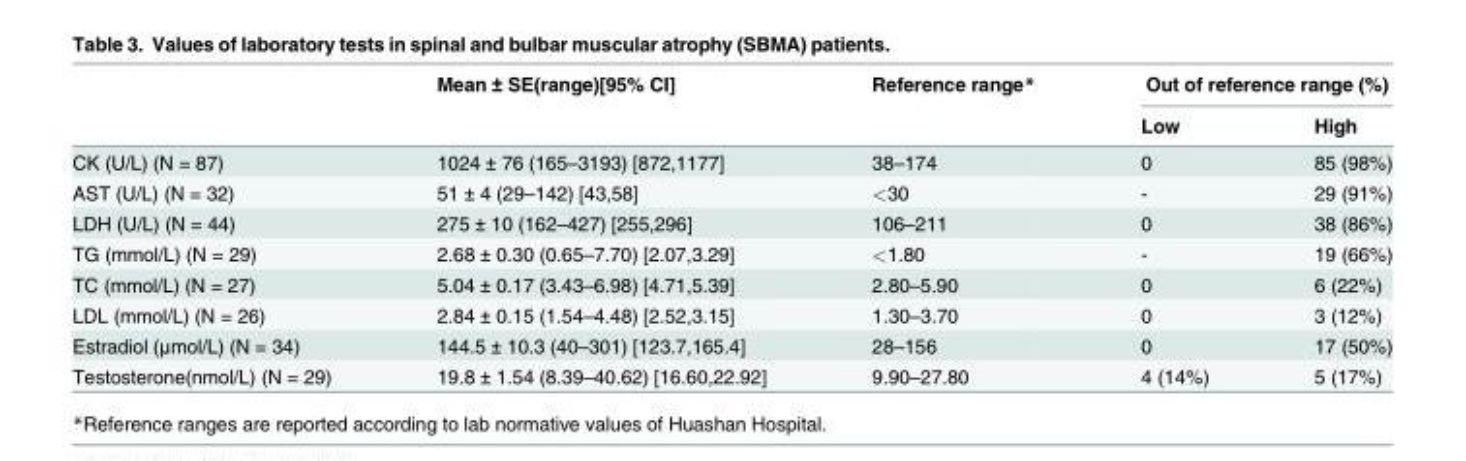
<table><thead><tr><td rowspan="2"></td><td rowspan="2">Mean ± SE(range)[95% CI]</td><td rowspan="2">Reference range*</td><td colspan="2">Out of reference range (%)</td></tr><tr><td>Low</td><td>High</td></tr></thead><tbody><tr><td>CK (U/L) (N = 87)</td><td>1024 ± 76 (165–3193) [872,1177]</td><td>38–174</td><td>0</td><td>85 (98%)</td></tr><tr><td>AST (U/L) (N = 32)</td><td>51 ± 4 (29–142) [43,58]</td><td>&lt;30</td><td>-</td><td>29 (91%)</td></tr><tr><td>LDH (U/L) (N = 44)</td><td>275 ± 10 (162–427) [255,296]</td><td>106–211</td><td>0</td><td>38 (86%)</td></tr><tr><td>TG (mmol/L) (N = 29)</td><td>2.68 ± 0.30 (0.65–7.70) [2.07,3.29]</td><td>&lt;1.80</td><td>-</td><td>19 (66%)</td></tr><tr><td>TC (mmol/L) (N = 27)</td><td>5.04 ± 0.17 (3.43–6.98) [4.71,5.39]</td><td>2.80–5.90</td><td>0</td><td>6 (22%)</td></tr><tr><td>LDL (mmol/L) (N = 26)</td><td>2.84 ± 0.15 (1.54–4.48) [2.52,3.15]</td><td>1.30–3.70</td><td>0</td><td>3 (12%)</td></tr><tr><td>Estradiol (μmol/L) (N = 34)</td><td>144.5 ± 10.3 (40–301) [123.7,165.4]</td><td>28–156</td><td>0</td><td>17 (50%)</td></tr><tr><td>Testosterone(nmol/L) (N = 29)</td><td>19.8 ± 1.54 (8.39–40.62) [16.60,22.92]</td><td>9.90–27.80</td><td>4 (14%)</td><td>5 (17%)</td></tr></tbody></table>